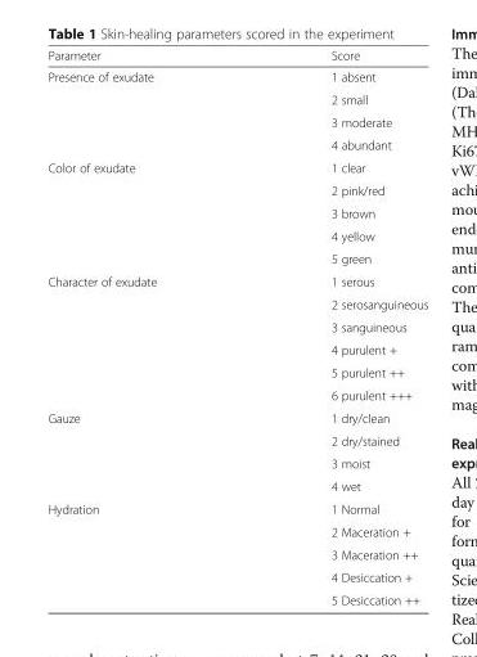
<table><thead><tr><td>Parameter</td><td>Score</td></tr></thead><tbody><tr><td rowspan="4">Presence of exudate</td><td>1 absent</td></tr><tr><td>2 small</td></tr><tr><td>3 moderate</td></tr><tr><td>4 abundant</td></tr><tr><td rowspan="5">Color of exudate</td><td>1 clear</td></tr><tr><td>2 pink/red</td></tr><tr><td>3 brown</td></tr><tr><td>4 yellow</td></tr><tr><td>5 green</td></tr><tr><td rowspan="6">Character of exudate</td><td>1 serous</td></tr><tr><td>2 serosanguineous</td></tr><tr><td>3 sanguineous</td></tr><tr><td>4 purulent +</td></tr><tr><td>5 purulent ++</td></tr><tr><td>6 purulent +++</td></tr><tr><td rowspan="4">Gauze</td><td>1 dry/clean</td></tr><tr><td>2 dry/stained</td></tr><tr><td>3 moist</td></tr><tr><td>4 wet</td></tr><tr><td rowspan="5">Hydration</td><td>1 Normal</td></tr><tr><td>2 Maceration +</td></tr><tr><td>3 Maceration ++</td></tr><tr><td>4 Desiccation +</td></tr><tr><td>5 Desiccation ++</td></tr></tbody></table>